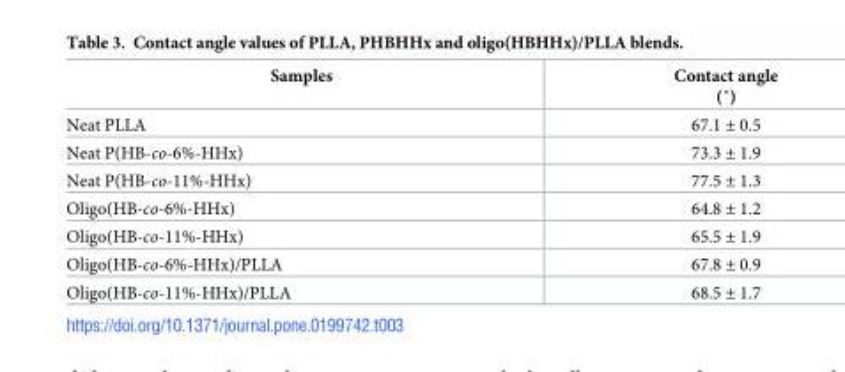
<table><thead><tr><td>Samples</td><td>Contact angle (˚)</td></tr></thead><tbody><tr><td>Neat PLLA</td><td>67.1 ± 0.5</td></tr><tr><td>Neat P(HB-co-6%-HHx)</td><td>73.3 ± 1.9</td></tr><tr><td>Neat P(HB-co-11%-HHx)</td><td>77.5 ± 1.3</td></tr><tr><td>Oligo(HB-co-6%-HHx)</td><td>64.8 ± 1.2</td></tr><tr><td>Oligo(HB-co-11%-HHx)</td><td>65.5 ± 1.9</td></tr><tr><td>Oligo(HB-co-6%-HHx)/PLLA</td><td>67.8 ± 0.9</td></tr><tr><td>Oligo(HB-co-11%-HHx)/PLLA</td><td>68.5 ± 1.7</td></tr></tbody></table>